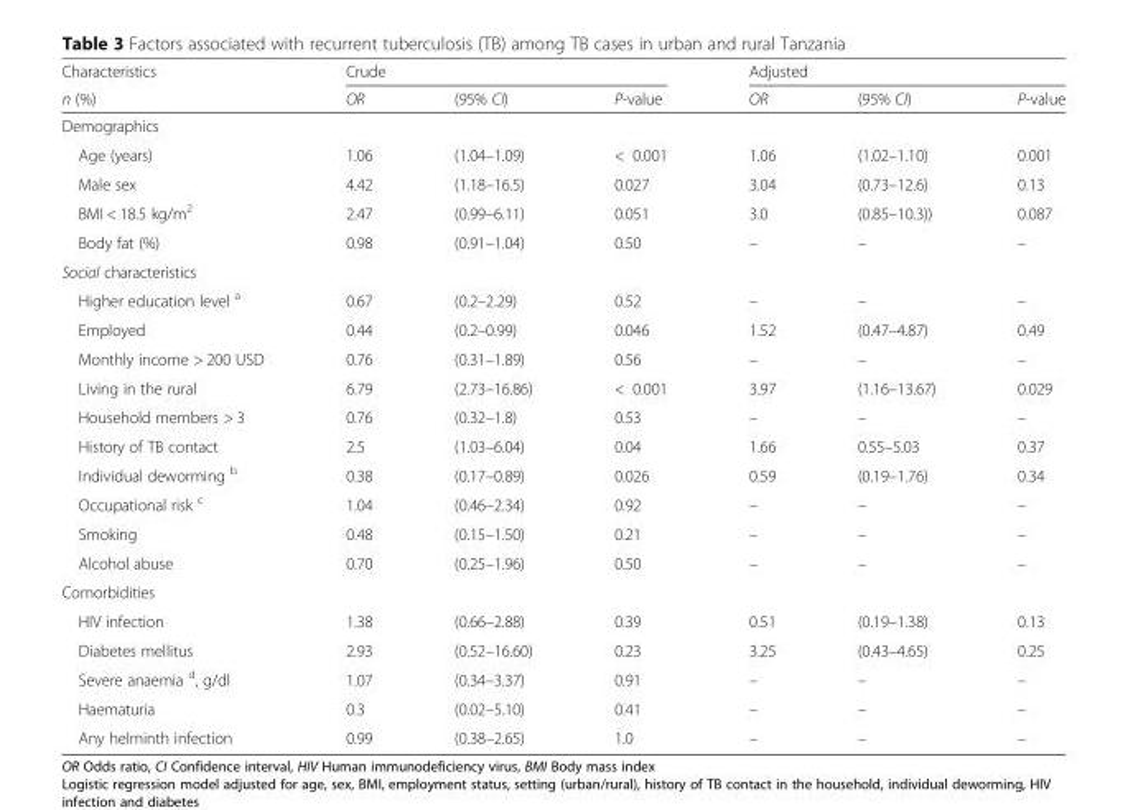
<table><thead><tr><td rowspan="2">Characteristics n (%)</td><td colspan="3">Crude</td><td colspan="3">Adjusted</td></tr><tr><td>OR</td><td>(95% CI)</td><td>P-value</td><td>OR</td><td>(95% CI)</td><td>P-value</td></tr></thead><tbody><tr><td colspan="7">Demographics</td></tr><tr><td>Age (years)</td><td>1.06</td><td>(1.04–1.09)</td><td>&lt; 0.001</td><td>1.06</td><td>(1.02–1.10)</td><td>0.001</td></tr><tr><td>Male sex</td><td>4.42</td><td>(1.18–16.5)</td><td>0.027</td><td>3.04</td><td>(0.73–12.6)</td><td>0.13</td></tr><tr><td>BMI &lt; 18.5 kg/m<sup>2</sup></td><td>2.47</td><td>(0.99–6.11)</td><td>0.051</td><td>3.0</td><td>(0.85–10.3))</td><td>0.087</td></tr><tr><td>Body fat (%)</td><td>0.98</td><td>(0.91–1.04)</td><td>0.50</td><td>–</td><td>–</td><td>–</td></tr><tr><td colspan="7">Social characteristics</td></tr><tr><td>Higher education level <sup>a</sup></td><td>0.67</td><td>(0.2–2.29)</td><td>0.52</td><td>–</td><td>–</td><td>–</td></tr><tr><td>Employed</td><td>0.44</td><td>(0.2–0.99)</td><td>0.046</td><td>1.52</td><td>(0.47–4.87)</td><td>0.49</td></tr><tr><td>Monthly income &gt; 200 USD</td><td>0.76</td><td>(0.31–1.89)</td><td>0.56</td><td>–</td><td>–</td><td>–</td></tr><tr><td>Living in the rural</td><td>6.79</td><td>(2.73–16.86)</td><td>&lt; 0.001</td><td>3.97</td><td>(1.16–13.67)</td><td>0.029</td></tr><tr><td>Household members &gt; 3</td><td>0.76</td><td>(0.32–1.8)</td><td>0.53</td><td>–</td><td>–</td><td>–</td></tr><tr><td>History of TB contact</td><td>2.5</td><td>(1.03–6.04)</td><td>0.04</td><td>1.66</td><td>0.55–5.03</td><td>0.37</td></tr><tr><td>Individual deworming <sup>b</sup></td><td>0.38</td><td>(0.17–0.89)</td><td>0.026</td><td>0.59</td><td>(0.19–1.76)</td><td>0.34</td></tr><tr><td>Occupational risk <sup>c</sup></td><td>1.04</td><td>(0.46–2.34)</td><td>0.92</td><td>–</td><td>–</td><td>–</td></tr><tr><td>Smoking</td><td>0.48</td><td>(0.15–1.50)</td><td>0.21</td><td>–</td><td>–</td><td>–</td></tr><tr><td>Alcohol abuse</td><td>0.70</td><td>(0.25–1.96)</td><td>0.50</td><td>–</td><td>–</td><td>–</td></tr><tr><td colspan="7">Comorbidities</td></tr><tr><td>HIV infection</td><td>1.38</td><td>(0.66–2.88)</td><td>0.39</td><td>0.51</td><td>(0.19–1.38)</td><td>0.13</td></tr><tr><td>Diabetes mellitus</td><td>2.93</td><td>(0.52–16.60)</td><td>0.23</td><td>3.25</td><td>(0.43–4.65)</td><td>0.25</td></tr><tr><td>Severe anaemia <sup>d</sup>, g/dl</td><td>1.07</td><td>(0.34–3.37)</td><td>0.91</td><td>–</td><td>–</td><td>–</td></tr><tr><td>Haematuria</td><td>0.3</td><td>(0.02–5.10)</td><td>0.41</td><td>–</td><td>–</td><td>–</td></tr><tr><td>Any helminth infection</td><td>0.99</td><td>(0.38–2.65)</td><td>1.0</td><td>–</td><td>–</td><td>–</td></tr></tbody></table>